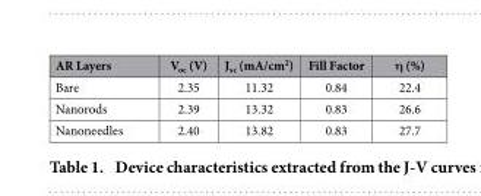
<table><thead><tr><td>AR Layers</td><td>V<sub>oc</sub> (V)</td><td>J<sub>sc</sub> (mA/cm<sup>2</sup>)</td><td>Fill Factor</td><td>η (%)</td></tr></thead><tbody><tr><td>Bare</td><td>2.35</td><td>11.32</td><td>0.84</td><td>22.4</td></tr><tr><td>Nanorods</td><td>2.39</td><td>13.32</td><td>0.83</td><td>26.6</td></tr><tr><td>Nanoneedles</td><td>2.40</td><td>13.82</td><td>0.83</td><td>27.7</td></tr></tbody></table>